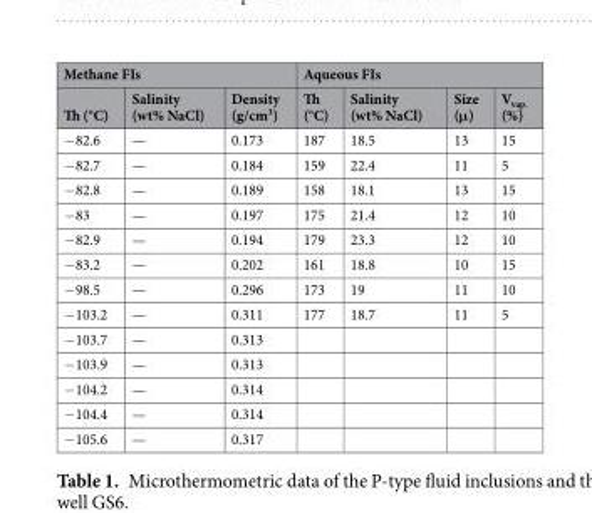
<table><thead><tr><td colspan="3">Methane FIs</td><td colspan="4">Aqueous FIs</td></tr><tr><td>Th (°C)</td><td>Salinity (wt% NaCl)</td><td>Density (g/cm<sup>3</sup>)</td><td>Th (°C)</td><td>Salinity (wt% NaCl)</td><td>Size (μ)</td><td>V<sub>vap.</sub> (%)</td></tr></thead><tbody><tr><td>−82.6</td><td>—</td><td>0.173</td><td>187</td><td>18.5</td><td>13</td><td>15</td></tr><tr><td>−82.7</td><td>—</td><td>0.184</td><td>159</td><td>22.4</td><td>11</td><td>5</td></tr><tr><td>−82.8</td><td>—</td><td>0.189</td><td>158</td><td>18.1</td><td>13</td><td>15</td></tr><tr><td>−83</td><td>—</td><td>0.197</td><td>175</td><td>21.4</td><td>12</td><td>10</td></tr><tr><td>−82.9</td><td>—</td><td>0.194</td><td>179</td><td>23.3</td><td>12</td><td>10</td></tr><tr><td>−83.2</td><td>—</td><td>0.202</td><td>161</td><td>18.8</td><td>10</td><td>15</td></tr><tr><td>−98.5</td><td>—</td><td>0.296</td><td>173</td><td>19</td><td>11</td><td>10</td></tr><tr><td>−103.2</td><td>—</td><td>0.311</td><td>177</td><td>18.7</td><td>11</td><td>5</td></tr><tr><td>−103.7</td><td>—</td><td>0.313</td><td></td><td></td><td></td><td></td></tr><tr><td>−103.9</td><td>—</td><td>0.313</td><td></td><td></td><td></td><td></td></tr><tr><td>−104.2</td><td>—</td><td>0.314</td><td></td><td></td><td></td><td></td></tr><tr><td>−104.4</td><td>—</td><td>0.314</td><td></td><td></td><td></td><td></td></tr><tr><td>−105.6</td><td>—</td><td>0.317</td><td></td><td></td><td></td><td></td></tr></tbody></table>